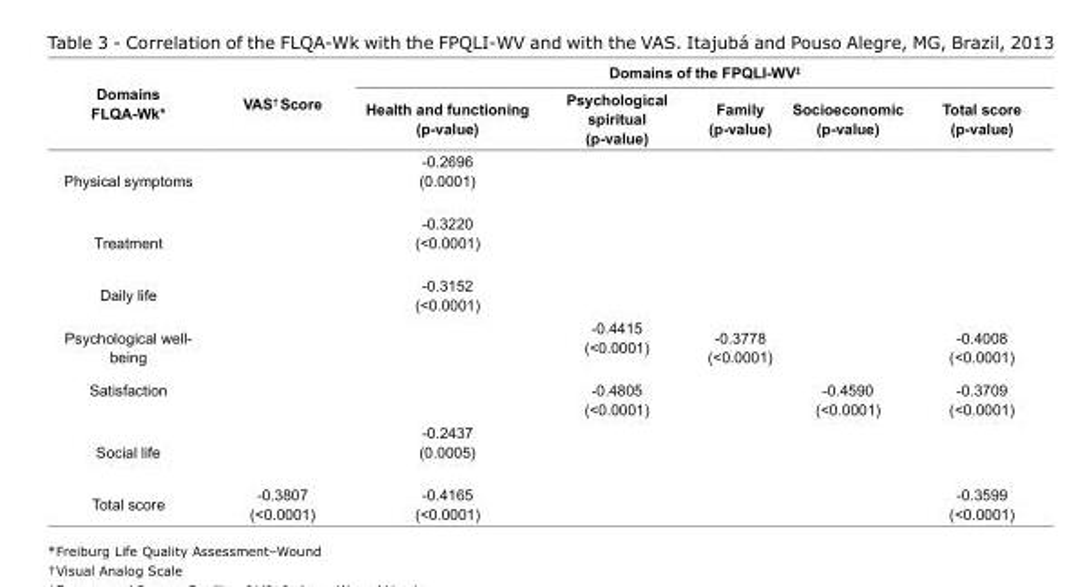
<table><thead><tr><td rowspan="2">Domains FLQA-Wk*</td><td rowspan="2">VAS<sup>†</sup> Score</td><td colspan="5">Domains of the FPQLI-WV<sup>‡</sup></td></tr><tr><td>Health and functioning (p-value)</td><td>Psychological spiritual (p-value)</td><td>Family (p-value)</td><td>Socioeconomic (p-value)</td><td>Total score (p-value)</td></tr></thead><tbody><tr><td>Physical symptoms</td><td></td><td>-0.2696 (0.0001)</td><td></td><td></td><td></td><td></td></tr><tr><td>Treatment</td><td></td><td>-0.3220 (&lt;0.0001)</td><td></td><td></td><td></td><td></td></tr><tr><td>Daily life</td><td></td><td>-0.3152 (&lt;0.0001)</td><td></td><td></td><td></td><td></td></tr><tr><td>Psychological well- being</td><td></td><td></td><td>-0.4415 (&lt;0.0001)</td><td>-0.3778 (&lt;0.0001)</td><td></td><td>-0.4008 (&lt;0.0001)</td></tr><tr><td>Satisfaction</td><td></td><td></td><td>-0.4805 (&lt;0.0001)</td><td></td><td>-0.4590 (&lt;0.0001)</td><td>-0.3709 (&lt;0.0001)</td></tr><tr><td>Social life</td><td></td><td>-0.2437 (0.0005)</td><td></td><td></td><td></td><td></td></tr><tr><td>Total score</td><td>-0.3807 (&lt;0.0001)</td><td>-0.4165 (&lt;0.0001)</td><td></td><td></td><td></td><td>-0.3599 (&lt;0.0001)</td></tr></tbody></table>